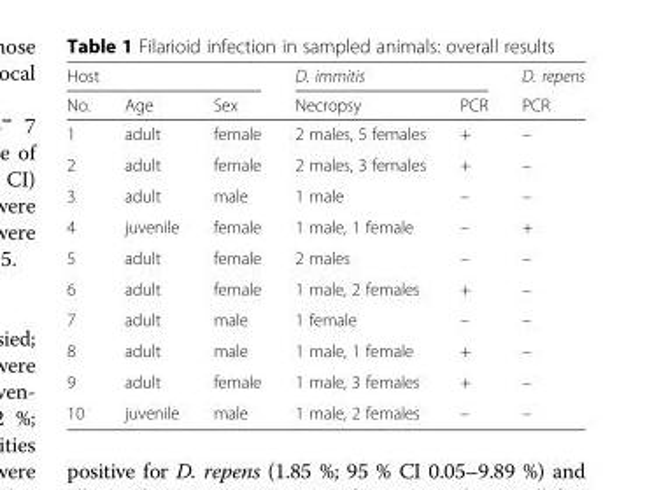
<table><thead><tr><td colspan="3">Host</td><td colspan="2">D. immitis</td><td rowspan="2">D. repens PCR</td></tr><tr><td>No.</td><td>Age</td><td>Sex</td><td>Necropsy</td><td>PCR</td></tr></thead><tbody><tr><td>1</td><td>adult</td><td>female</td><td>2 males, 5 females</td><td>+</td><td>–</td></tr><tr><td>2</td><td>adult</td><td>female</td><td>2 males, 3 females</td><td>+</td><td>–</td></tr><tr><td>3</td><td>adult</td><td>male</td><td>1 male</td><td>–</td><td>–</td></tr><tr><td>4</td><td>juvenile</td><td>female</td><td>1 male, 1 female</td><td>–</td><td>+</td></tr><tr><td>5</td><td>adult</td><td>female</td><td>2 males</td><td>–</td><td>–</td></tr><tr><td>6</td><td>adult</td><td>female</td><td>1 male, 2 females</td><td>+</td><td>–</td></tr><tr><td>7</td><td>adult</td><td>male</td><td>1 female</td><td>–</td><td>–</td></tr><tr><td>8</td><td>adult</td><td>male</td><td>1 male, 1 female</td><td>+</td><td>–</td></tr><tr><td>9</td><td>adult</td><td>female</td><td>1 male, 3 females</td><td>+</td><td>–</td></tr><tr><td>10</td><td>juvenile</td><td>male</td><td>1 male, 2 females</td><td>–</td><td>–</td></tr></tbody></table>